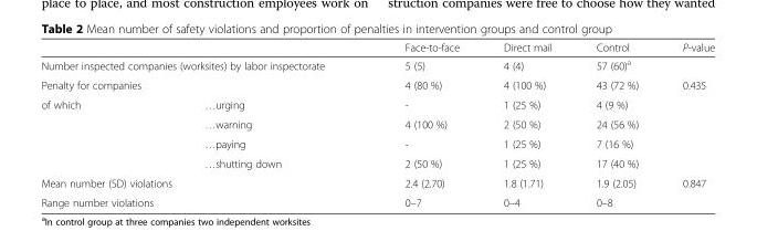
<table><thead><tr><td></td><td></td><td>Face-to-face</td><td>Direct mail</td><td>Control</td><td>P-value</td></tr></thead><tbody><tr><td colspan="2">Number inspected companies (worksites) by labor inspectorate</td><td>5 (5)</td><td>4 (4)</td><td>57 (60)<sup>a</sup></td><td></td></tr><tr><td colspan="2">Penalty for companies</td><td>4 (80 %)</td><td>4 (100 %)</td><td>43 (72 %)</td><td>0.435</td></tr><tr><td rowspan="4">of which</td><td>…urging</td><td>-</td><td>1 (25 %)</td><td>4 (9 %)</td><td></td></tr><tr><td>…warning</td><td>4 (100 %)</td><td>2 (50 %)</td><td>24 (56 %)</td><td></td></tr><tr><td>…paying</td><td>-</td><td>1 (25 %)</td><td>7 (16 %)</td><td></td></tr><tr><td>…shutting down</td><td>2 (50 %)</td><td>1 (25 %)</td><td>17 (40 %)</td><td></td></tr><tr><td colspan="2">Mean number (SD) violations</td><td>2.4 (2.70)</td><td>1.8 (1.71)</td><td>1.9 (2.05)</td><td>0.847</td></tr><tr><td colspan="2">Range number violations</td><td>0–7</td><td>0–4</td><td>0–8</td><td></td></tr></tbody></table>